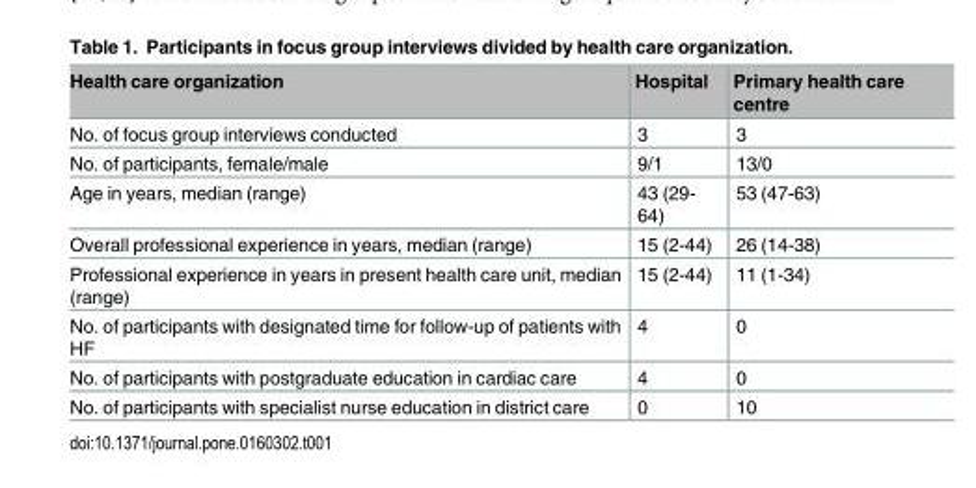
<table><thead><tr><td>Health care organization</td><td>Hospital</td><td>Primary health care centre</td></tr></thead><tbody><tr><td>No. of focus group interviews conducted</td><td>3</td><td>3</td></tr><tr><td>No. of participants, female/male</td><td>9/1</td><td>13/0</td></tr><tr><td>Age in years, median (range)</td><td>43 (29- 64)</td><td>53 (47-63)</td></tr><tr><td>Overall professional experience in years, median (range)</td><td>15 (2-44)</td><td>26 (14-38)</td></tr><tr><td>Professional experience in years in present health care unit, median (range)</td><td>15 (2-44)</td><td>11 (1-34)</td></tr><tr><td>No. of participants with designated time for follow-up of patients with HF</td><td>4</td><td>0</td></tr><tr><td>No. of participants with postgraduate education in cardiac care</td><td>4</td><td>0</td></tr><tr><td>No. of participants with specialist nurse education in district care</td><td>0</td><td>10</td></tr></tbody></table>